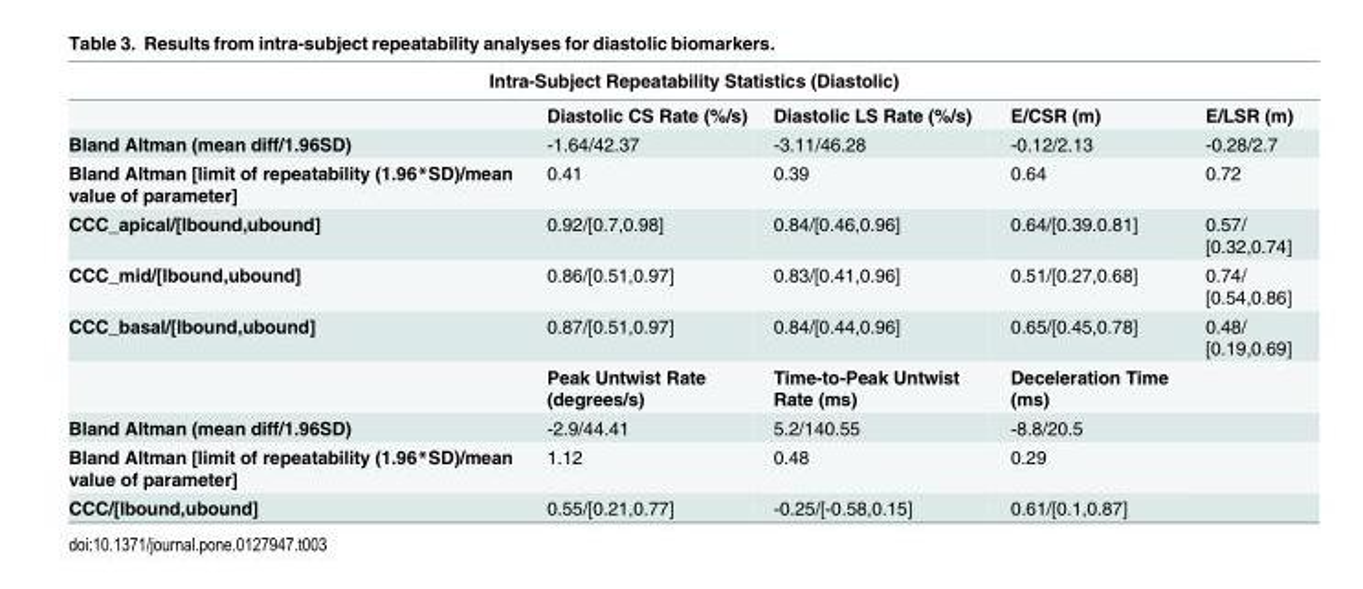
<table><thead><tr><td colspan="5">Intra-Subject Repeatability Statistics (Diastolic)</td></tr><tr><td></td><td>Diastolic CS Rate (%/s)</td><td>Diastolic LS Rate (%/s)</td><td>E/CSR (m)</td><td>E/LSR (m)</td></tr></thead><tbody><tr><td>Bland Altman (mean diff/1.96SD)</td><td>-1.64/42.37</td><td>-3.11/46.28</td><td>-0.12/2.13</td><td>-0.28/2.7</td></tr><tr><td>Bland Altman [limit of repeatability (1.96*SD)/mean value of parameter]</td><td>0.41</td><td>0.39</td><td>0.64</td><td>0.72</td></tr><tr><td>CCC_apical/[lbound,ubound]</td><td>0.92/[0.7,0.98]</td><td>0.84/[0.46,0.96]</td><td>0.64/[0.39.0.81]</td><td>0.57/ [0.32,0.74]</td></tr><tr><td>CCC_mid/[lbound,ubound]</td><td>0.86/[0.51,0.97]</td><td>0.83/[0.41,0.96]</td><td>0.51/[0.27,0.68]</td><td>0.74/ [0.54,0.86]</td></tr><tr><td rowspan="2">CCC_basal/[lbound,ubound]</td><td>0.87/[0.51,0.97]</td><td>0.84/[0.44,0.96]</td><td>0.65/[0.45,0.78]</td><td>0.48/ [0.19,0.69]</td></tr><tr><td>Peak Untwist Rate (degrees/s)</td><td>Time-to-Peak Untwist Rate (ms)</td><td>Deceleration Time (ms)</td><td></td></tr><tr><td>Bland Altman (mean diff/1.96SD)</td><td>-2.9/44.41</td><td>5.2/140.55</td><td>-8.8/20.5</td><td></td></tr><tr><td>Bland Altman [limit of repeatability (1.96*SD)/mean value of parameter]</td><td>1.12</td><td>0.48</td><td>0.29</td><td></td></tr><tr><td>CCC/[lbound,ubound]</td><td>0.55/[0.21,0.77]</td><td>-0.25/[-0.58,0.15]</td><td>0.61/[0.1,0.87]</td><td></td></tr></tbody></table>